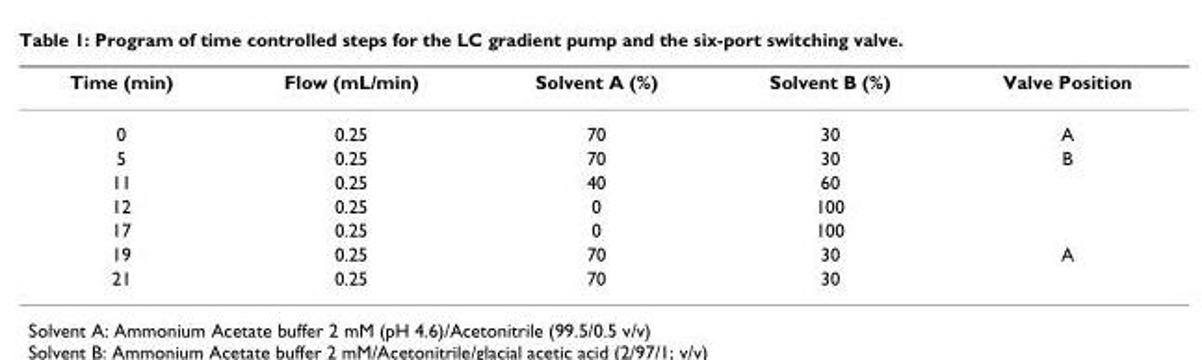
<table><thead><tr><td>Time (min)</td><td>Flow (mL/min)</td><td>Solvent A (%)</td><td>Solvent B (%)</td><td>Valve Position</td></tr></thead><tbody><tr><td>0</td><td>0.25</td><td>70</td><td>30</td><td>A</td></tr><tr><td>5</td><td>0.25</td><td>70</td><td>30</td><td>B</td></tr><tr><td>11</td><td>0.25</td><td>40</td><td>60</td><td></td></tr><tr><td>12</td><td>0.25</td><td>0</td><td>100</td><td></td></tr><tr><td>17</td><td>0.25</td><td>0</td><td>100</td><td></td></tr><tr><td>19</td><td>0.25</td><td>70</td><td>30</td><td>A</td></tr><tr><td>21</td><td>0.25</td><td>70</td><td>30</td><td></td></tr></tbody></table>